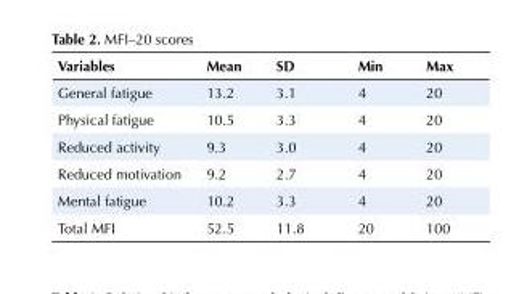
<table><tbody><tr><td>Variables</td><td>Mean</td><td>SD</td><td>Min</td><td>Max</td></tr><tr><td>General fatigue</td><td>13.2</td><td>3.1</td><td>4</td><td>20</td></tr><tr><td>Physical fatigue</td><td>10.5</td><td>3.3</td><td>4</td><td>20</td></tr><tr><td>Reduced activity</td><td>9.3</td><td>3.0</td><td>4</td><td>20</td></tr><tr><td>Reduced motivation</td><td>9.2</td><td>2.7</td><td>4</td><td>20</td></tr><tr><td>Mental fatigue</td><td>10.2</td><td>3.3</td><td>4</td><td>20</td></tr><tr><td>Total MFI</td><td>52.5</td><td>11.8</td><td>20</td><td>100</td></tr></tbody></table>